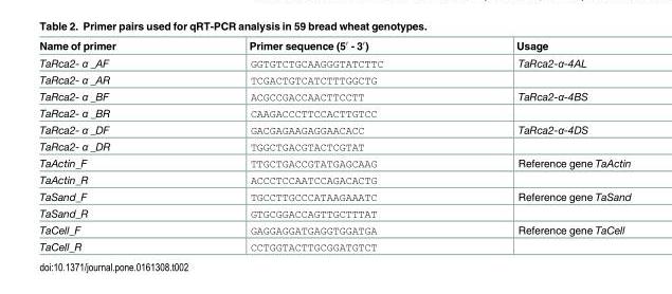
<table><thead><tr><td>Name of primer</td><td>Primer sequence (5′ - 3′)</td><td>Usage</td></tr></thead><tbody><tr><td>TaRca2- α _AF</td><td>GGTGTCTGCAAGGGTATCTTC</td><td>TaRca2-α-4AL</td></tr><tr><td>TaRca2- α _AR</td><td>TCGACTGTCATCTTTGGCTG</td><td></td></tr><tr><td>TaRca2- α _BF</td><td>ACGCCGACCAACTTCCTT</td><td>TaRca2-α-4BS</td></tr><tr><td>TaRca2- α _BR</td><td>CAAGACCCTTCCACTTGTCC</td><td></td></tr><tr><td>TaRca2- α _DF</td><td>GACGAGAAGAGGAACACC</td><td>TaRca2-α-4DS</td></tr><tr><td>TaRca2- α _DR</td><td>TGGCTGACGTACTCGTAT</td><td></td></tr><tr><td>TaActin_F</td><td>TTGCTGACCGTATGAGCAAG</td><td>Reference gene TaActin</td></tr><tr><td>TaActin_R</td><td>ACCCTCCAATCCAGACACTG</td><td></td></tr><tr><td>TaSand_F</td><td>TGCCTTGCCCATAAGAAATC</td><td>Reference gene TaSand</td></tr><tr><td>TaSand_R</td><td>GTGCGGACCAGTTGCTTTAT</td><td></td></tr><tr><td>TaCell_F</td><td>GAGGAGGATGAGGTGGATGA</td><td>Reference gene TaCell</td></tr><tr><td>TaCell_R</td><td>CCTGGTACTTGCGGATGTCT</td><td></td></tr></tbody></table>